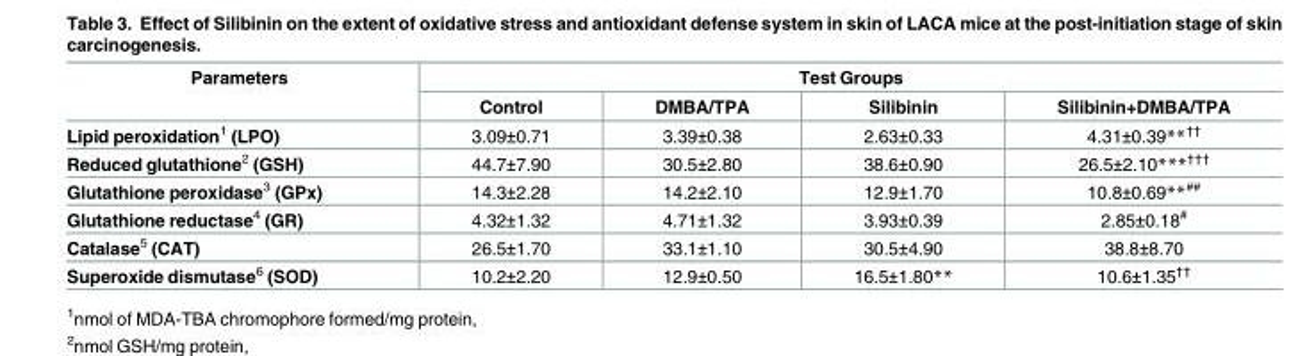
<table><thead><tr><td rowspan="2">Parameters</td><td colspan="4">Test Groups</td></tr><tr><td>Control</td><td>DMBA/TPA</td><td>Silibinin</td><td>Silibinin+DMBA/TPA</td></tr></thead><tbody><tr><td>Lipid peroxidation<sup>1</sup> (LPO)</td><td>3.09±0.71</td><td>3.39±0.38</td><td>2.63±0.33</td><td>4.31±0.39**<sup>††</sup></td></tr><tr><td>Reduced glutathione<sup>2</sup> (GSH)</td><td>44.7±7.90</td><td>30.5±2.80</td><td>38.6±0.90</td><td>26.5±2.10***<sup>†††</sup></td></tr><tr><td>Glutathione peroxidase<sup>3</sup> (GPx)</td><td>14.3±2.28</td><td>14.2±2.10</td><td>12.9±1.70</td><td>10.8±0.69**<sup>##</sup></td></tr><tr><td>Glutathione reductase<sup>4</sup> (GR)</td><td>4.32±1.32</td><td>4.71±1.32</td><td>3.93±0.39</td><td>2.85±0.18<sup>#</sup></td></tr><tr><td>Catalase<sup>5</sup> (CAT)</td><td>26.5±1.70</td><td>33.1±1.10</td><td>30.5±4.90</td><td>38.8±8.70</td></tr><tr><td>Superoxide dismutase<sup>6</sup> (SOD)</td><td>10.2±2.20</td><td>12.9±0.50</td><td>16.5±1.80**</td><td>10.6±1.35<sup>††</sup></td></tr></tbody></table>